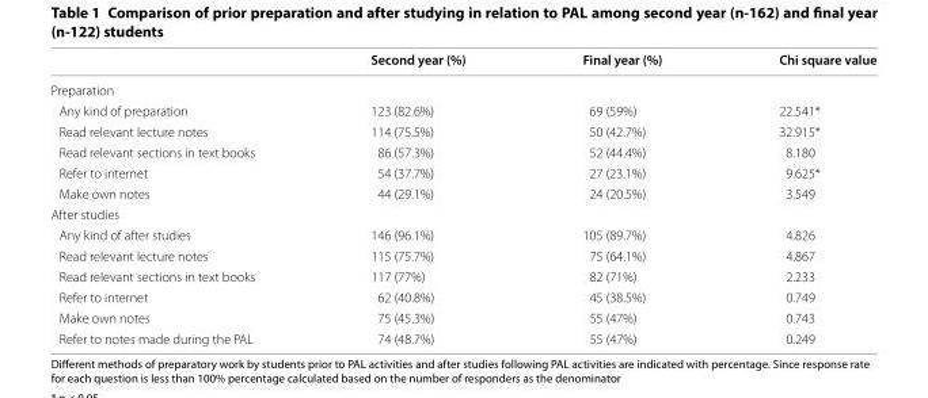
<table><thead><tr><td></td><td>Second year (%)</td><td>Final year (%)</td><td>Chi square value</td></tr></thead><tbody><tr><td colspan="4">Preparation</td></tr><tr><td>Any kind of preparation</td><td>123 (82.6%)</td><td>69 (59%)</td><td>22.541*</td></tr><tr><td>Read relevant lecture notes</td><td>114 (75.5%)</td><td>50 (42.7%)</td><td>32.915*</td></tr><tr><td>Read relevant sections in text books</td><td>86 (57.3%)</td><td>52 (44.4%)</td><td>8.180</td></tr><tr><td>Refer to internet</td><td>54 (37.7%)</td><td>27 (23.1%)</td><td>9.625*</td></tr><tr><td>Make own notes</td><td>44 (29.1%)</td><td>24 (20.5%)</td><td>3.549</td></tr><tr><td colspan="4">After studies</td></tr><tr><td>Any kind of after studies</td><td>146 (96.1%)</td><td>105 (89.7%)</td><td>4.826</td></tr><tr><td>Read relevant lecture notes</td><td>115 (75.7%)</td><td>75 (64.1%)</td><td>4.867</td></tr><tr><td>Read relevant sections in text books</td><td>117 (77%)</td><td>82 (71%)</td><td>2.233</td></tr><tr><td>Refer to internet</td><td>62 (40.8%)</td><td>45 (38.5%)</td><td>0.749</td></tr><tr><td>Make own notes</td><td>75 (45.3%)</td><td>55 (47%)</td><td>0.743</td></tr><tr><td>Refer to notes made during the PAL</td><td>74 (48.7%)</td><td>55 (47%)</td><td>0.249</td></tr></tbody></table>